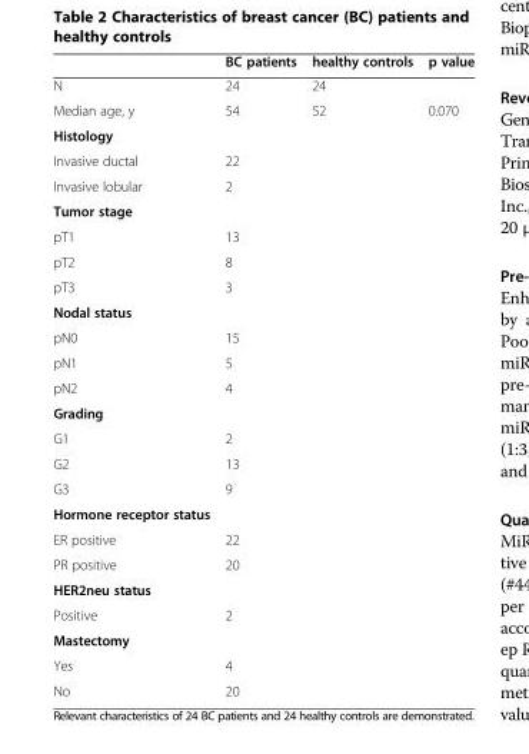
<table><thead><tr><td></td><td>BC patients</td><td>healthy controls</td><td>p value</td></tr></thead><tbody><tr><td>N</td><td>24</td><td>24</td><td></td></tr><tr><td>Median age, y</td><td>54</td><td>52</td><td>0.070</td></tr><tr><td colspan="4">Histology</td></tr><tr><td>Invasive ductal</td><td>22</td><td></td><td></td></tr><tr><td>Invasive lobular</td><td>2</td><td></td><td></td></tr><tr><td colspan="4">Tumor stage</td></tr><tr><td>pT1</td><td>13</td><td></td><td></td></tr><tr><td>pT2</td><td>8</td><td></td><td></td></tr><tr><td>pT3</td><td>3</td><td></td><td></td></tr><tr><td colspan="4">Nodal status</td></tr><tr><td>pN0</td><td>15</td><td></td><td></td></tr><tr><td>pN1</td><td>5</td><td></td><td></td></tr><tr><td>pN2</td><td>4</td><td></td><td></td></tr><tr><td colspan="4">Grading</td></tr><tr><td>G1</td><td>2</td><td></td><td></td></tr><tr><td>G2</td><td>13</td><td></td><td></td></tr><tr><td>G3</td><td>9</td><td></td><td></td></tr><tr><td colspan="4">Hormone receptor status</td></tr><tr><td>ER positive</td><td>22</td><td></td><td></td></tr><tr><td>PR positive</td><td>20</td><td></td><td></td></tr><tr><td colspan="4">HER2neu status</td></tr><tr><td>Positive</td><td>2</td><td></td><td></td></tr><tr><td colspan="4">Mastectomy</td></tr><tr><td>Yes</td><td>4</td><td></td><td></td></tr><tr><td>No</td><td>20</td><td></td><td></td></tr></tbody></table>